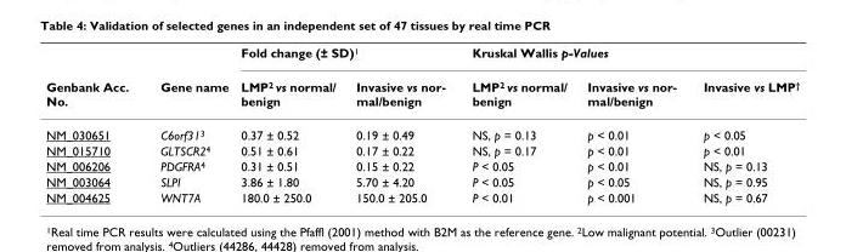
<table><thead><tr><td rowspan="2">Genbank Acc. No.</td><td rowspan="2">Gene name</td><td colspan="2">Fold change (± SD)<sup>1</sup></td><td colspan="3">Kruskal Wallis p-Values</td></tr><tr><td>LMP<sup>2</sup> vs normal/ benign</td><td>Invasive vs nor- mal/benign</td><td>LMP<sup>2</sup> vs normal/ benign</td><td>Invasive vs nor- mal/benign</td><td>Invasive vs LMP<sup>†</sup></td></tr></thead><tbody><tr><td>NM_030651</td><td>C6orf31<sup>3</sup></td><td>0.37 ± 0.52</td><td>0.19 ± 0.49</td><td>NS, p = 0.13</td><td>p &lt; 0.01</td><td>p &lt; 0.05</td></tr><tr><td>NM_015710</td><td>GLTSCR2<sup>4</sup></td><td>0.51 ± 0.61</td><td>0.17 ± 0.22</td><td>NS, p = 0.17</td><td>p &lt; 0.01</td><td>p &lt; 0.01</td></tr><tr><td>NM_006206</td><td>PDGFRA<sup>4</sup></td><td>0.31 ± 0.51</td><td>0.15 ± 0.22</td><td>P &lt; 0.05</td><td>p &lt; 0.01</td><td>NS, p = 0.13</td></tr><tr><td>NM_003064</td><td>SLPI</td><td>3.86 ± 1.80</td><td>5.70 ± 4.20</td><td>P &lt; 0.05</td><td>p &lt; 0.05</td><td>NS, p = 0.95</td></tr><tr><td>NM_004625</td><td>WNT7A</td><td>180.0 ± 250.0</td><td>150.0 ± 205.0</td><td>P &lt; 0.01</td><td>p &lt; 0.001</td><td>NS, p = 0.67</td></tr></tbody></table>